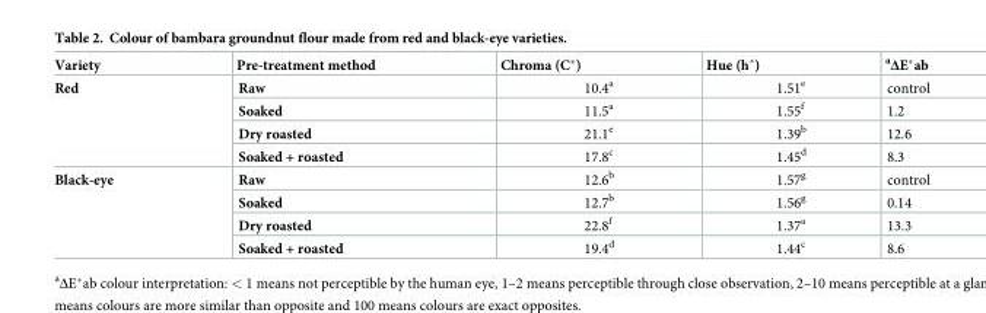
<table><thead><tr><td>Variety</td><td>Pre-treatment method</td><td>Chroma (C*)</td><td>Hue (h˚)</td><td><sup>a</sup>ΔE*ab</td></tr></thead><tbody><tr><td rowspan="4">Red</td><td>Raw</td><td>10.4<sup>a</sup></td><td>1.51<sup>e</sup></td><td>control</td></tr><tr><td>Soaked</td><td>11.5<sup>a</sup></td><td>1.55<sup>f</sup></td><td>1.2</td></tr><tr><td>Dry roasted</td><td>21.1<sup>e</sup></td><td>1.39<sup>b</sup></td><td>12.6</td></tr><tr><td>Soaked + roasted</td><td>17.8<sup>c</sup></td><td>1.45<sup>d</sup></td><td>8.3</td></tr><tr><td rowspan="4">Black-eye</td><td>Raw</td><td>12.6<sup>b</sup></td><td>1.57<sup>g</sup></td><td>control</td></tr><tr><td>Soaked</td><td>12.7<sup>b</sup></td><td>1.56<sup>g</sup></td><td>0.14</td></tr><tr><td>Dry roasted</td><td>22.8<sup>f</sup></td><td>1.37<sup>a</sup></td><td>13.3</td></tr><tr><td>Soaked + roasted</td><td>19.4<sup>d</sup></td><td>1.44<sup>c</sup></td><td>8.6</td></tr></tbody></table>